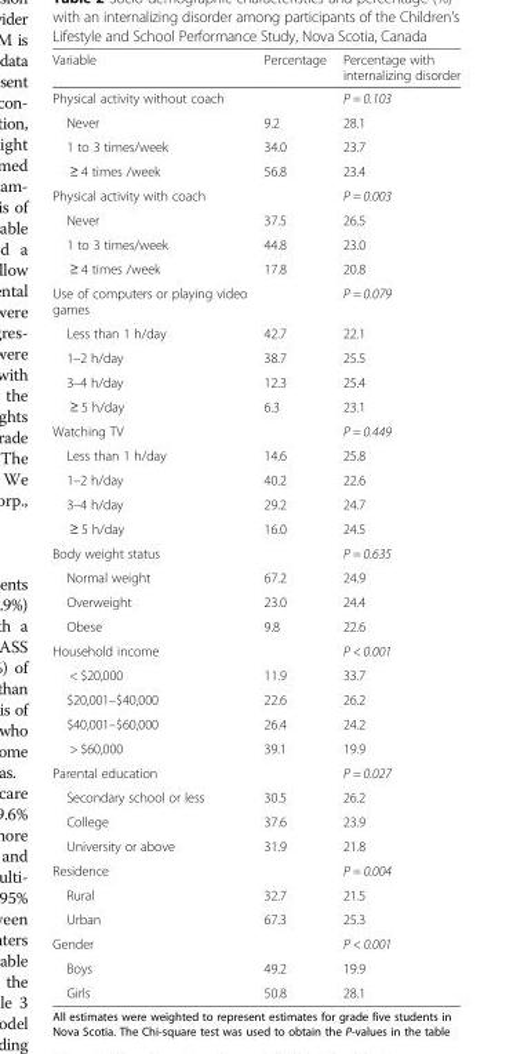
<table><thead><tr><td>Variable</td><td>Percentage</td><td>Percentage with internalizing disorder</td></tr></thead><tbody><tr><td>Physical activity without coach</td><td></td><td>P = 0.103</td></tr><tr><td>Never</td><td>9.2</td><td>28.1</td></tr><tr><td>1 to 3 times/week</td><td>34.0</td><td>23.7</td></tr><tr><td>≥ 4 times /week</td><td>56.8</td><td>23.4</td></tr><tr><td>Physical activity with coach</td><td></td><td>P = 0.003</td></tr><tr><td>Never</td><td>37.5</td><td>26.5</td></tr><tr><td>1 to 3 times/week</td><td>44.8</td><td>23.0</td></tr><tr><td>≥ 4 times /week</td><td>17.8</td><td>20.8</td></tr><tr><td>Use of computers or playing video games</td><td></td><td>P = 0.079</td></tr><tr><td>Less than 1 h/day</td><td>42.7</td><td>22.1</td></tr><tr><td>1–2 h/day</td><td>38.7</td><td>25.5</td></tr><tr><td>3–4 h/day</td><td>12.3</td><td>25.4</td></tr><tr><td>≥ 5 h/day</td><td>6.3</td><td>23.1</td></tr><tr><td>Watching TV</td><td></td><td>P = 0.449</td></tr><tr><td>Less than 1 h/day</td><td>14.6</td><td>25.8</td></tr><tr><td>1–2 h/day</td><td>40.2</td><td>22.6</td></tr><tr><td>3–4 h/day</td><td>29.2</td><td>24.7</td></tr><tr><td>≥ 5 h/day</td><td>16.0</td><td>24.5</td></tr><tr><td>Body weight status</td><td></td><td>P = 0.635</td></tr><tr><td>Normal weight</td><td>67.2</td><td>24.9</td></tr><tr><td>Overweight</td><td>23.0</td><td>24.4</td></tr><tr><td>Obese</td><td>9.8</td><td>22.6</td></tr><tr><td>Household income</td><td></td><td>P &lt; 0.001</td></tr><tr><td>&lt; $20,000</td><td>11.9</td><td>33.7</td></tr><tr><td>$20,001–$40,000</td><td>22.6</td><td>26.2</td></tr><tr><td>$40,001–$60,000</td><td>26.4</td><td>24.2</td></tr><tr><td>&gt; $60,000</td><td>39.1</td><td>19.9</td></tr><tr><td>Parental education</td><td></td><td>P = 0.027</td></tr><tr><td>Secondary school or less</td><td>30.5</td><td>26.2</td></tr><tr><td>College</td><td>37.6</td><td>23.9</td></tr><tr><td>University or above</td><td>31.9</td><td>21.8</td></tr><tr><td>Residence</td><td></td><td>P = 0.004</td></tr><tr><td>Rural</td><td>32.7</td><td>21.5</td></tr><tr><td>Urban</td><td>67.3</td><td>25.3</td></tr><tr><td>Gender</td><td></td><td>P &lt; 0.001</td></tr><tr><td>Boys</td><td>49.2</td><td>19.9</td></tr><tr><td>Girls</td><td>50.8</td><td>28.1</td></tr></tbody></table>